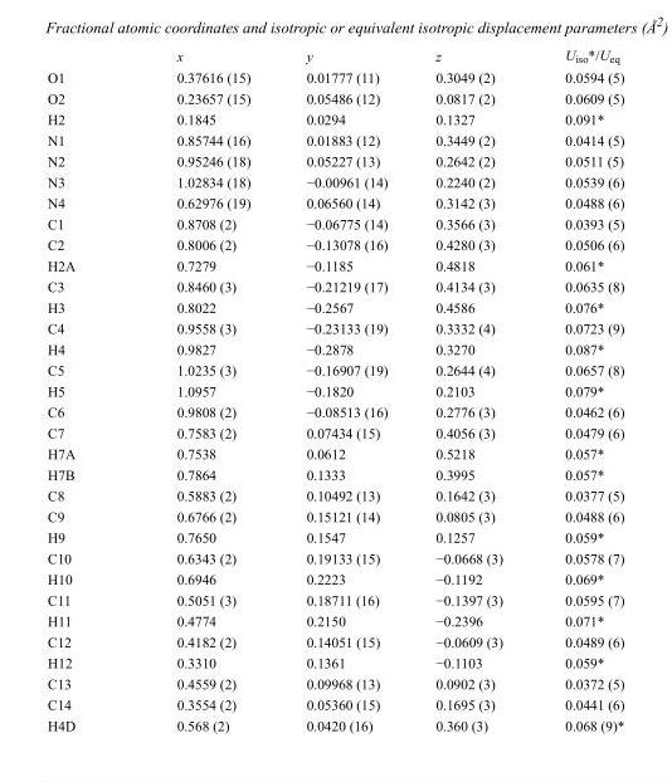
<table><thead><tr><td></td><td>x</td><td>y</td><td>z</td><td>U<sub>iso</sub>*/U<sub>eq</sub></td></tr></thead><tbody><tr><td>O1</td><td>0.37616 (15)</td><td>0.01777 (11)</td><td>0.3049 (2)</td><td>0.0594 (5)</td></tr><tr><td>O2</td><td>0.23657 (15)</td><td>0.05486 (12)</td><td>0.0817 (2)</td><td>0.0609 (5)</td></tr><tr><td>H2</td><td>0.1845</td><td>0.0294</td><td>0.1327</td><td>0.091*</td></tr><tr><td>N1</td><td>0.85744 (16)</td><td>0.01883 (12)</td><td>0.3449 (2)</td><td>0.0414 (5)</td></tr><tr><td>N2</td><td>0.95246 (18)</td><td>0.05227 (13)</td><td>0.2642 (2)</td><td>0.0511 (5)</td></tr><tr><td>N3</td><td>1.02834 (18)</td><td>−0.00961 (14)</td><td>0.2240 (2)</td><td>0.0539 (6)</td></tr><tr><td>N4</td><td>0.62976 (19)</td><td>0.06560 (14)</td><td>0.3142 (3)</td><td>0.0488 (6)</td></tr><tr><td>C1</td><td>0.8708 (2)</td><td>−0.06775 (14)</td><td>0.3566 (3)</td><td>0.0393 (5)</td></tr><tr><td>C2</td><td>0.8006 (2)</td><td>−0.13078 (16)</td><td>0.4280 (3)</td><td>0.0506 (6)</td></tr><tr><td>H2A</td><td>0.7279</td><td>−0.1185</td><td>0.4818</td><td>0.061*</td></tr><tr><td>C3</td><td>0.8460 (3)</td><td>−0.21219 (17)</td><td>0.4134 (3)</td><td>0.0635 (8)</td></tr><tr><td>H3</td><td>0.8022</td><td>−0.2567</td><td>0.4586</td><td>0.076*</td></tr><tr><td>C4</td><td>0.9558 (3)</td><td>−0.23133 (19)</td><td>0.3332 (4)</td><td>0.0723 (9)</td></tr><tr><td>H4</td><td>0.9827</td><td>−0.2878</td><td>0.3270</td><td>0.087*</td></tr><tr><td>C5</td><td>1.0235 (3)</td><td>−0.16907 (19)</td><td>0.2644 (4)</td><td>0.0657 (8)</td></tr><tr><td>H5</td><td>1.0957</td><td>−0.1820</td><td>0.2103</td><td>0.079*</td></tr><tr><td>C6</td><td>0.9808 (2)</td><td>−0.08513 (16)</td><td>0.2776 (3)</td><td>0.0462 (6)</td></tr><tr><td>C7</td><td>0.7583 (2)</td><td>0.07434 (15)</td><td>0.4056 (3)</td><td>0.0479 (6)</td></tr><tr><td>H7A</td><td>0.7538</td><td>0.0612</td><td>0.5218</td><td>0.057*</td></tr><tr><td>H7B</td><td>0.7864</td><td>0.1333</td><td>0.3995</td><td>0.057*</td></tr><tr><td>C8</td><td>0.5883 (2)</td><td>0.10492 (13)</td><td>0.1642 (3)</td><td>0.0377 (5)</td></tr><tr><td>C9</td><td>0.6766 (2)</td><td>0.15121 (14)</td><td>0.0805 (3)</td><td>0.0488 (6)</td></tr><tr><td>H9</td><td>0.7650</td><td>0.1547</td><td>0.1257</td><td>0.059*</td></tr><tr><td>C10</td><td>0.6343 (2)</td><td>0.19133 (15)</td><td>−0.0668 (3)</td><td>0.0578 (7)</td></tr><tr><td>H10</td><td>0.6946</td><td>0.2223</td><td>−0.1192</td><td>0.069*</td></tr><tr><td>C11</td><td>0.5051 (3)</td><td>0.18711 (16)</td><td>−0.1397 (3)</td><td>0.0595 (7)</td></tr><tr><td>H11</td><td>0.4774</td><td>0.2150</td><td>−0.2396</td><td>0.071*</td></tr><tr><td>C12</td><td>0.4182 (2)</td><td>0.14051 (15)</td><td>−0.0609 (3)</td><td>0.0489 (6)</td></tr><tr><td>H12</td><td>0.3310</td><td>0.1361</td><td>−0.1103</td><td>0.059*</td></tr><tr><td>C13</td><td>0.4559 (2)</td><td>0.09968 (13)</td><td>0.0902 (3)</td><td>0.0372 (5)</td></tr><tr><td>C14</td><td>0.3554 (2)</td><td>0.05360 (15)</td><td>0.1695 (3)</td><td>0.0441 (6)</td></tr><tr><td>H4D</td><td>0.568 (2)</td><td>0.0420 (16)</td><td>0.360 (3)</td><td>0.068 (9)*</td></tr></tbody></table>